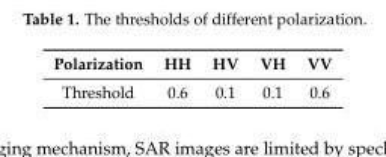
<table><thead><tr><td>Polarization</td><td>HH</td><td>HV</td><td>VH</td><td>VV</td></tr></thead><tbody><tr><td>Threshold</td><td>0.6</td><td>0.1</td><td>0.1</td><td>0.6</td></tr></tbody></table>